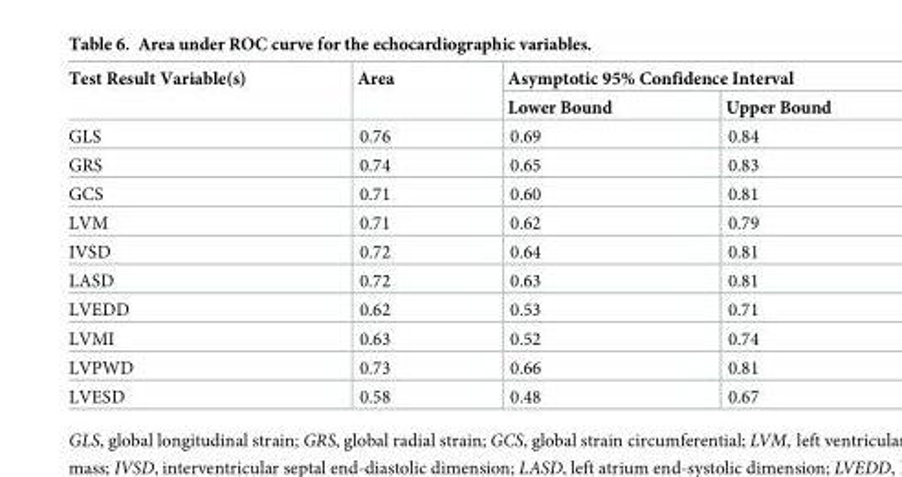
<table><thead><tr><td rowspan="2">Test Result Variable(s)</td><td rowspan="2">Area</td><td colspan="2">Asymptotic 95% Confidence Interval</td></tr><tr><td>Lower Bound</td><td>Upper Bound</td></tr></thead><tbody><tr><td>GLS</td><td>0.76</td><td>0.69</td><td>0.84</td></tr><tr><td>GRS</td><td>0.74</td><td>0.65</td><td>0.83</td></tr><tr><td>GCS</td><td>0.71</td><td>0.60</td><td>0.81</td></tr><tr><td>LVM</td><td>0.71</td><td>0.62</td><td>0.79</td></tr><tr><td>IVSD</td><td>0.72</td><td>0.64</td><td>0.81</td></tr><tr><td>LASD</td><td>0.72</td><td>0.63</td><td>0.81</td></tr><tr><td>LVEDD</td><td>0.62</td><td>0.53</td><td>0.71</td></tr><tr><td>LVMI</td><td>0.63</td><td>0.52</td><td>0.74</td></tr><tr><td>LVPWD</td><td>0.73</td><td>0.66</td><td>0.81</td></tr><tr><td>LVESD</td><td>0.58</td><td>0.48</td><td>0.67</td></tr></tbody></table>